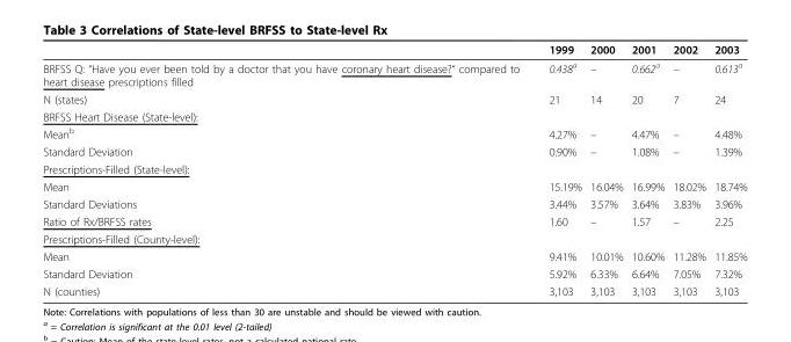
<table><thead><tr><td></td><td>1999</td><td>2000</td><td>2001</td><td>2002</td><td>2003</td></tr></thead><tbody><tr><td>BRFSS Q: “Have you ever been told by a doctor that you have coronary heart disease?“ compared to heart disease prescriptions filled</td><td>0.438<sup>a</sup></td><td>–</td><td>0.662<sup>a</sup></td><td>–</td><td>0.613<sup>a</sup></td></tr><tr><td>N (states)</td><td>21</td><td>14</td><td>20</td><td>7</td><td>24</td></tr><tr><td colspan="6">BRFSS Heart Disease (State-level):</td></tr><tr><td>Mean<sup>b</sup></td><td>4.27%</td><td>–</td><td>4.47%</td><td>–</td><td>4.48%</td></tr><tr><td>Standard Deviation</td><td>0.90%</td><td>–</td><td>1.08%</td><td>–</td><td>1.39%</td></tr><tr><td colspan="6">Prescriptions-Filled (State-level):</td></tr><tr><td>Mean</td><td>15.19%</td><td>16.04%</td><td>16.99%</td><td>18.02%</td><td>18.74%</td></tr><tr><td>Standard Deviations</td><td>3.44%</td><td>3.57%</td><td>3.64%</td><td>3.83%</td><td>3.96%</td></tr><tr><td>Ratio of Rx/BRFSS rates</td><td>1.60</td><td>–</td><td>1.57</td><td>–</td><td>2.25</td></tr><tr><td colspan="6">Prescriptions-Filled (County-level):</td></tr><tr><td>Mean</td><td>9.41%</td><td>10.01%</td><td>10.60%</td><td>11.28%</td><td>11.85%</td></tr><tr><td>Standard Deviation</td><td>5.92%</td><td>6.33%</td><td>6.64%</td><td>7.05%</td><td>7.32%</td></tr><tr><td>N (counties)</td><td>3,103</td><td>3,103</td><td>3,103</td><td>3,103</td><td>3,103</td></tr></tbody></table>